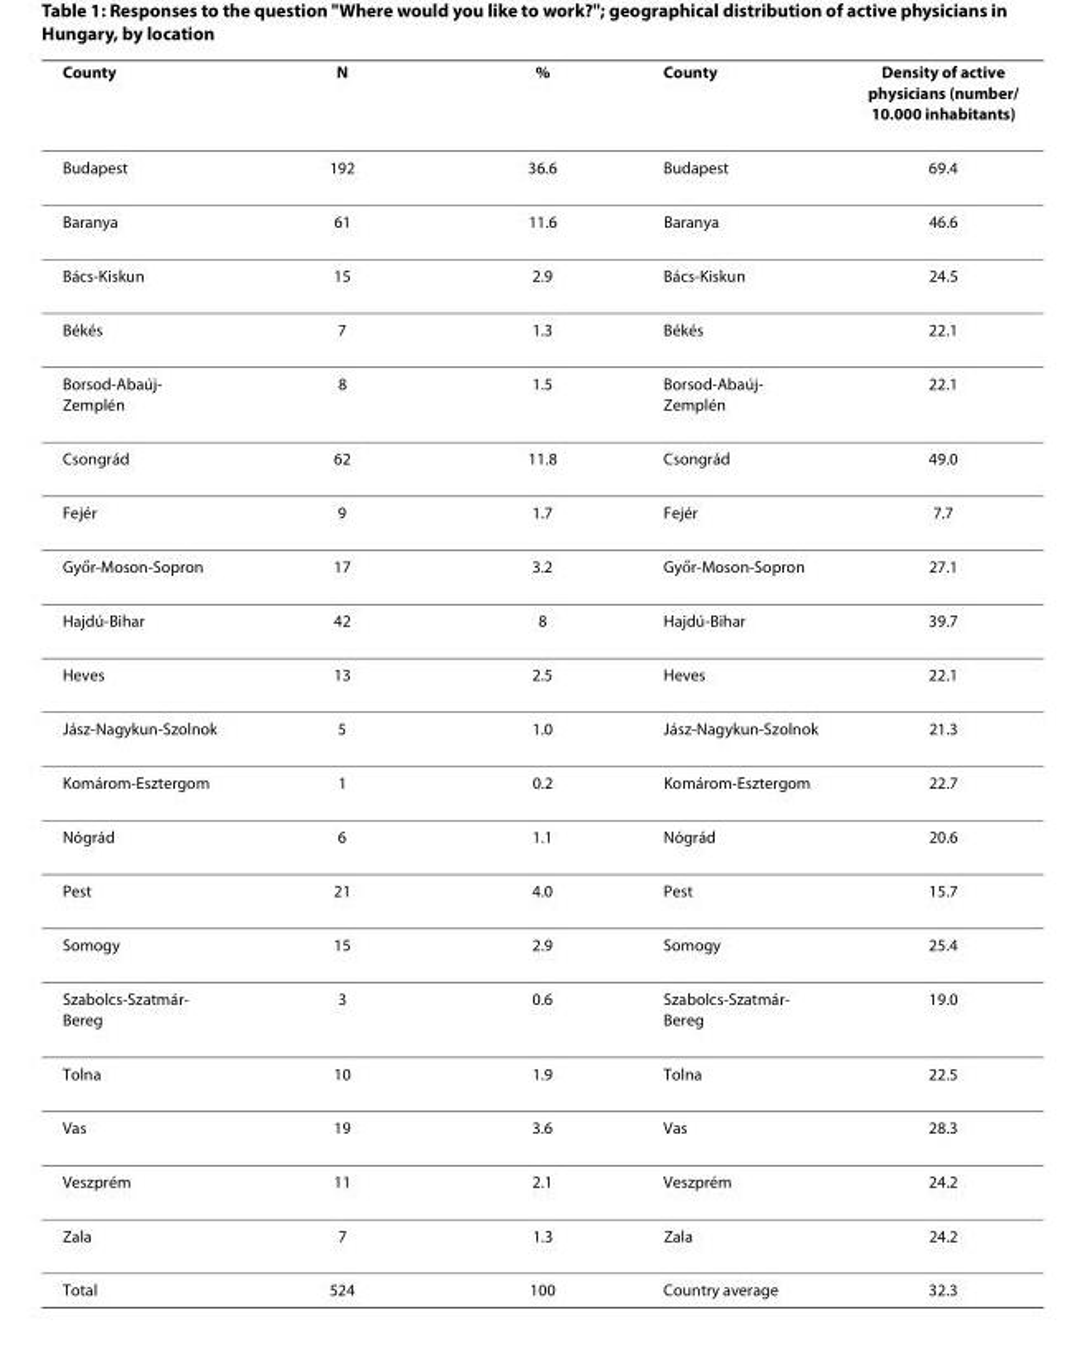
<table><thead><tr><td>County</td><td>N</td><td>%</td><td>County</td><td>Density of active physicians (number/ 10.000 inhabitants)</td></tr></thead><tbody><tr><td>Budapest</td><td>192</td><td>36.6</td><td>Budapest</td><td>69.4</td></tr><tr><td>Baranya</td><td>61</td><td>11.6</td><td>Baranya</td><td>46.6</td></tr><tr><td>Bács-Kiskun</td><td>15</td><td>2.9</td><td>Bács-Kiskun</td><td>24.5</td></tr><tr><td>Békés</td><td>7</td><td>1.3</td><td>Békés</td><td>22.1</td></tr><tr><td>Borsod-Abaúj- Zemplén</td><td>8</td><td>1.5</td><td>Borsod-Abaúj- Zemplén</td><td>22.1</td></tr><tr><td>Csongrád</td><td>62</td><td>11.8</td><td>Csongrád</td><td>49.0</td></tr><tr><td>Fejér</td><td>9</td><td>1.7</td><td>Fejér</td><td>7.7</td></tr><tr><td>Győr-Moson-Sopron</td><td>17</td><td>3.2</td><td>Győr-Moson-Sopron</td><td>27.1</td></tr><tr><td>Hajdú-Bihar</td><td>42</td><td>8</td><td>Hajdú-Bihar</td><td>39.7</td></tr><tr><td>Heves</td><td>13</td><td>2.5</td><td>Heves</td><td>22.1</td></tr><tr><td>Jász-Nagykun-Szolnok</td><td>5</td><td>1.0</td><td>Jász-Nagykun-Szolnok</td><td>21.3</td></tr><tr><td>Komárom-Esztergom</td><td>1</td><td>0.2</td><td>Komárom-Esztergom</td><td>22.7</td></tr><tr><td>Nógrád</td><td>6</td><td>1.1</td><td>Nógrád</td><td>20.6</td></tr><tr><td>Pest</td><td>21</td><td>4.0</td><td>Pest</td><td>15.7</td></tr><tr><td>Somogy</td><td>15</td><td>2.9</td><td>Somogy</td><td>25.4</td></tr><tr><td>Szabolcs-Szatmár- Bereg</td><td>3</td><td>0.6</td><td>Szabolcs-Szatmár- Bereg</td><td>19.0</td></tr><tr><td>Tolna</td><td>10</td><td>1.9</td><td>Tolna</td><td>22.5</td></tr><tr><td>Vas</td><td>19</td><td>3.6</td><td>Vas</td><td>28.3</td></tr><tr><td>Veszprém</td><td>11</td><td>2.1</td><td>Veszprém</td><td>24.2</td></tr><tr><td>Zala</td><td>7</td><td>1.3</td><td>Zala</td><td>24.2</td></tr><tr><td>Total</td><td>524</td><td>100</td><td>Country average</td><td>32.3</td></tr></tbody></table>